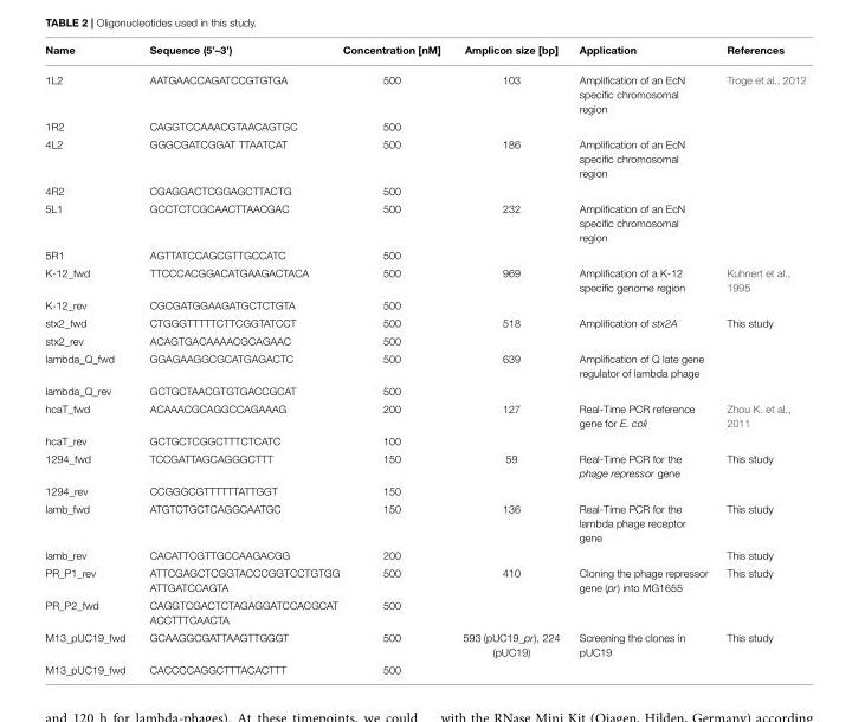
<table><thead><tr><td>Name</td><td>Sequence (5’–3’)</td><td>Concentration [nM]</td><td>Amplicon size [bp]</td><td>Application</td><td>References</td></tr></thead><tbody><tr><td>1L2</td><td>AATGAACCAGATCCGTGTGA</td><td>500</td><td>103</td><td>Amplification of an EcN specific chromosomal region</td><td>Troge et al., 2012</td></tr><tr><td>1R2</td><td>CAGGTCCAAACGTAACAGTGC</td><td>500</td><td></td><td></td><td></td></tr><tr><td>4L2</td><td>GGGCGATCGGAT TTAATCAT</td><td>500</td><td>186</td><td>Amplification of an EcN specific chromosomal region</td><td></td></tr><tr><td>4R2</td><td>CGAGGACTCGGAGCTTACTG</td><td>500</td><td></td><td></td><td></td></tr><tr><td>5L1</td><td>GCCTCTCGCAACTTAACGAC</td><td>500</td><td>232</td><td>Amplification of an EcN specific chromosomal region</td><td></td></tr><tr><td>5R1</td><td>AGTTATCCAGCGTTGCCATC</td><td>500</td><td></td><td></td><td></td></tr><tr><td>K-12_fwd</td><td>TTCCCACGGACATGAAGACTACA</td><td>500</td><td>969</td><td>Amplification of a K-12 specific genome region</td><td>Kuhnert et al., 1995</td></tr><tr><td>K-12_rev</td><td>CGCGATGGAAGATGCTCTGTA</td><td>500</td><td></td><td></td><td></td></tr><tr><td>stx2_fwd</td><td>CTGGGTTTTTCTTCGGTATCCT</td><td>500</td><td>518</td><td>Amplification of stx2A</td><td>This study</td></tr><tr><td>stx2_rev</td><td>ACAGTGACAAAACGCAGAAC</td><td>500</td><td></td><td></td><td></td></tr><tr><td>lambda_Q_fwd</td><td>GGAGAAGGCGCATGAGACTC</td><td>500</td><td>639</td><td>Amplification of Q late gene regulator of lambda phage</td><td></td></tr><tr><td>lambda_Q_rev</td><td>GCTGCTAACGTGTGACCGCAT</td><td>500</td><td></td><td></td><td></td></tr><tr><td>hcaT_fwd</td><td>ACAAACGCAGGCCAGAAAG</td><td>200</td><td>127</td><td>Real-Time PCR reference gene for E. coli</td><td>Zhou K. et al., 2011</td></tr><tr><td>hcaT_rev</td><td>GCTGCTCGGCTTTCTCATC</td><td>100</td><td></td><td></td><td></td></tr><tr><td>1294_fwd</td><td>TCCGATTAGCAGGGCTTT</td><td>150</td><td>59</td><td>Real-Time PCR for the phage repressor gene</td><td>This study</td></tr><tr><td>1294_rev</td><td>CCGGGCGTTTTTTATTGGT</td><td>150</td><td></td><td></td><td></td></tr><tr><td>lamb_fwd</td><td>ATGTCTGCTCAGGCAATGC</td><td>150</td><td>136</td><td>Real-Time PCR for the lambda phage receptor gene</td><td>This study</td></tr><tr><td>lamb_rev</td><td>CACATTCGTTGCCAAGACGG</td><td>200</td><td></td><td></td><td>This study</td></tr><tr><td>PR_P1_rev</td><td>ATTCGAGCTCGGTACCCGGTCCTGTGG ATTGATCCAGTA</td><td>500</td><td>410</td><td>Cloning the phage repressor gene (pr) into MG1655</td><td>This study</td></tr><tr><td>PR_P2_fwd</td><td>CAGGTCGACTCTAGAGGATCCACGCAT ACCTTTCAACTA</td><td>500</td><td></td><td></td><td></td></tr><tr><td>M13_pUC19_fwd</td><td>GCAAGGCGATTAAGTTGGGT</td><td>500</td><td>593 (pUC19_pr), 224 (pUC19)</td><td>Screening the clones in pUC19</td><td>This study</td></tr><tr><td>M13_pUC19_fwd</td><td>CACCCCAGGCTTTACACTTT</td><td>500</td><td></td><td></td><td></td></tr></tbody></table>